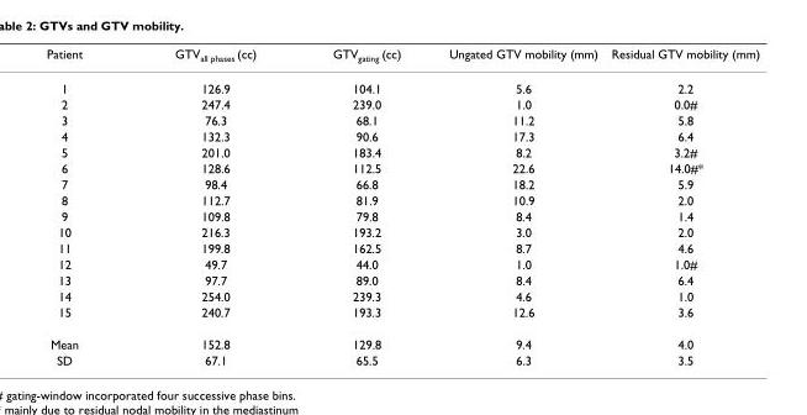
<table><thead><tr><td>Patient</td><td>GTV<sub>all phases</sub> (cc)</td><td>GTV<sub>gating</sub> (cc)</td><td>Ungated GTV mobility (mm)</td><td>Residual GTV mobility (mm)</td></tr></thead><tbody><tr><td>1</td><td>126.9</td><td>104.1</td><td>5.6</td><td>2.2</td></tr><tr><td>2</td><td>247.4</td><td>239.0</td><td>1.0</td><td>0.0#</td></tr><tr><td>3</td><td>76.3</td><td>68.1</td><td>11.2</td><td>5.8</td></tr><tr><td>4</td><td>132.3</td><td>90.6</td><td>17.3</td><td>6.4</td></tr><tr><td>5</td><td>201.0</td><td>183.4</td><td>8.2</td><td>3.2#</td></tr><tr><td>6</td><td>128.6</td><td>112.5</td><td>22.6</td><td>14.0#*</td></tr><tr><td>7</td><td>98.4</td><td>66.8</td><td>18.2</td><td>5.9</td></tr><tr><td>8</td><td>112.7</td><td>81.9</td><td>10.9</td><td>2.0</td></tr><tr><td>9</td><td>109.8</td><td>79.8</td><td>8.4</td><td>1.4</td></tr><tr><td>10</td><td>216.3</td><td>193.2</td><td>3.0</td><td>2.0</td></tr><tr><td>11</td><td>199.8</td><td>162.5</td><td>8.7</td><td>4.6</td></tr><tr><td>12</td><td>49.7</td><td>44.0</td><td>1.0</td><td>1.0#</td></tr><tr><td>13</td><td>97.7</td><td>89.0</td><td>8.4</td><td>6.4</td></tr><tr><td>14</td><td>254.0</td><td>239.3</td><td>4.6</td><td>1.0</td></tr><tr><td>15</td><td>240.7</td><td>193.3</td><td>12.6</td><td>3.6</td></tr><tr><td>Mean</td><td>152.8</td><td>129.8</td><td>9.4</td><td>4.0</td></tr><tr><td>SD</td><td>67.1</td><td>65.5</td><td>6.3</td><td>3.5</td></tr></tbody></table>